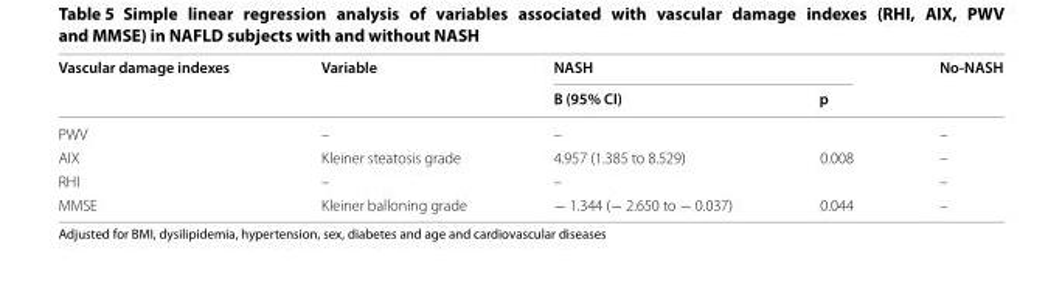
<table><thead><tr><td rowspan="2">Vascular damage indexes</td><td rowspan="2">Variable</td><td colspan="2">NASH</td><td rowspan="2">No‑NASH</td></tr><tr><td>B (95% CI)</td><td>p</td></tr></thead><tbody><tr><td>PWV</td><td>–</td><td>–</td><td></td><td>–</td></tr><tr><td>AIX</td><td>Kleiner steatosis grade</td><td>4.957 (1.385 to 8.529)</td><td>0.008</td><td>–</td></tr><tr><td>RHI</td><td>–</td><td>–</td><td></td><td>–</td></tr><tr><td>MMSE</td><td>Kleiner balloning grade</td><td>− 1.344 (− 2.650 to − 0.037)</td><td>0.044</td><td>–</td></tr></tbody></table>